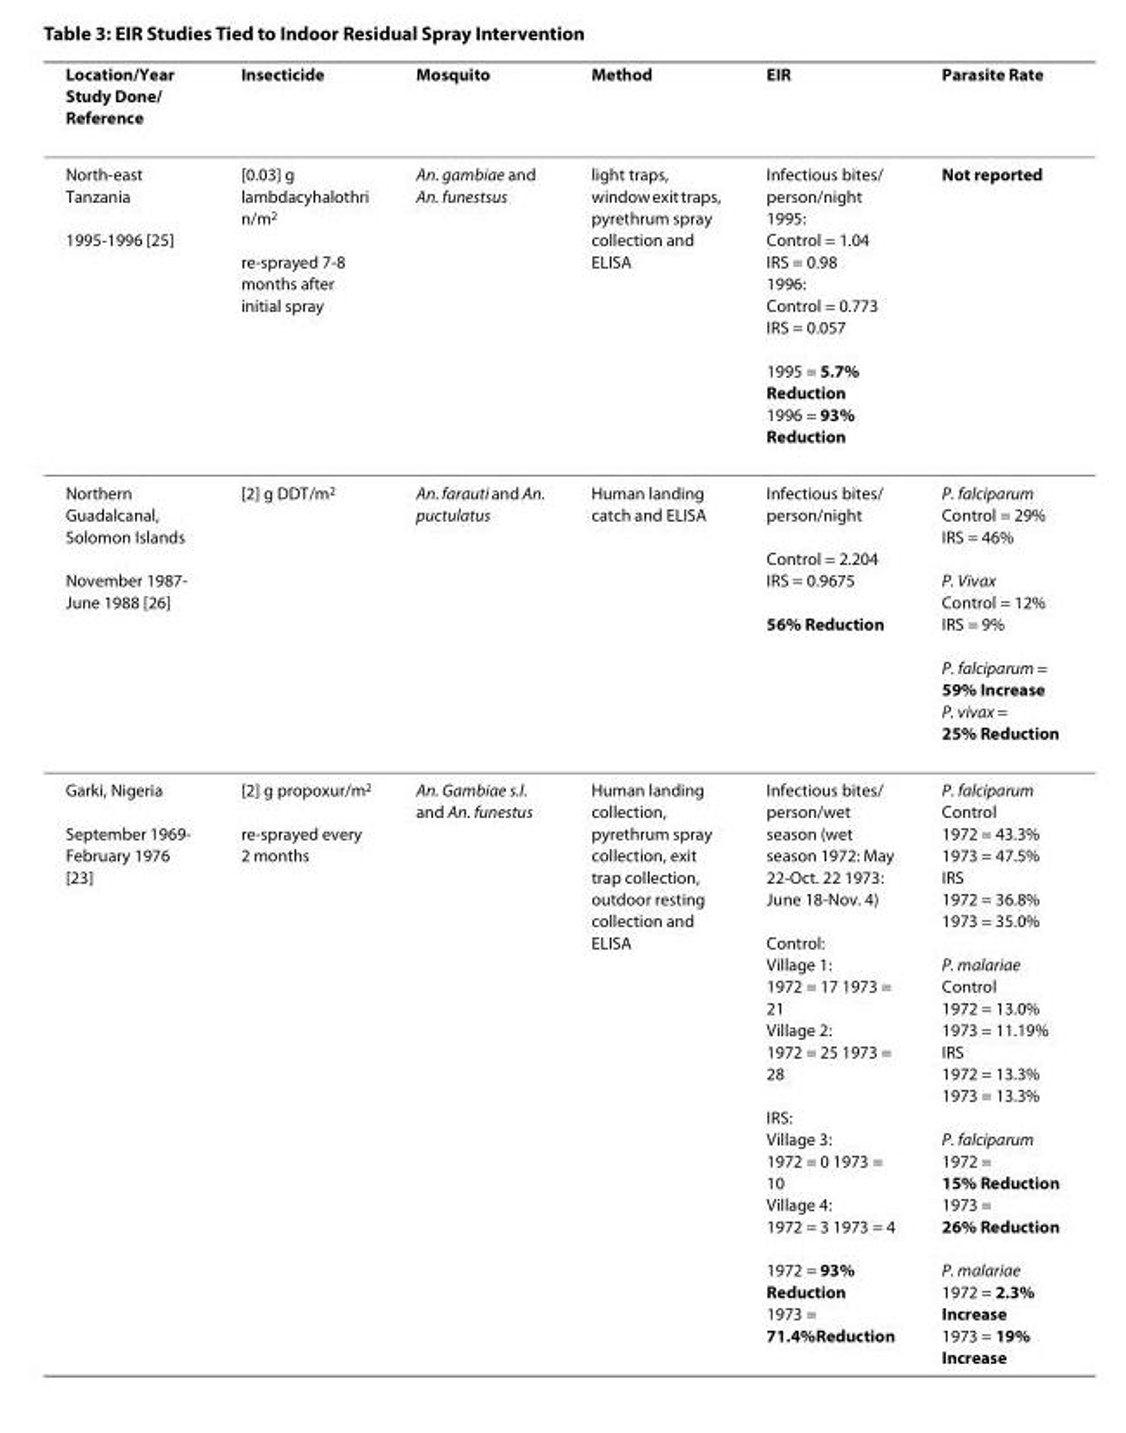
<table><thead><tr><td>Location/Year Study Done/ Reference</td><td>Insecticide</td><td>Mosquito</td><td>Method</td><td>EIR</td><td>Parasite Rate</td></tr></thead><tbody><tr><td>North-east Tanzania 1995-1996 [25]</td><td>[0.03] g lambdacyhalothri n/m<sup>2</sup> re-sprayed 7-8 months after initial spray</td><td>An. gambiae and An. funestsus</td><td>light traps, window exit traps, pyrethrum spray collection and ELISA</td><td>Infectious bites/ person/night 1995: Control = 1.04 IRS = 0.98 1996: Control = 0.773 IRS = 0.057 1995 = 5.7% Reduction 1996 = 93% Reduction</td><td>Not reported</td></tr><tr><td>Northern Guadalcanal, Solomon Islands November 1987- June 1988 [26]</td><td>[2] g DDT/m<sup>2</sup></td><td>An. farauti and An. puctulatus</td><td>Human landing catch and ELISA</td><td>Infectious bites/ person/night Control = 2.204 IRS = 0.9675 56% Reduction</td><td>P. falciparum Control = 29% IRS = 46% P. Vivax Control = 12% IRS = 9% P. falciparum = 59% Increase P. vivax = 25% Reduction</td></tr><tr><td>Garki, Nigeria September 1969- February 1976 [23]</td><td>[2] g propoxur/m<sup>2</sup> re-sprayed every 2 months</td><td>An. Gambiae s.l. and An. funestus</td><td>Human landing collection, pyrethrum spray collection, exit trap collection, outdoor resting collection and ELISA</td><td>Infectious bites/ person/wet season (wet season 1972: May 22-Oct. 22 1973: June 18-Nov. 4) Control: Village 1: 1972 = 17 1973 = 21 Village 2: 1972 = 25 1973 = 28 IRS: Village 3: 1972 = 0 1973 = 10 Village 4: 1972 = 3 1973 = 4 1972 = 93% Reduction 1973 = 71.4%Reduction</td><td>P. falciparum Control 1972 = 43.3% 1973 = 47.5% IRS 1972 = 36.8% 1973 = 35.0% P. malariae Control 1972 = 13.0% 1973 = 11.19% IRS 1972 = 13.3% 1973 = 13.3% P. falciparum 1972 = 15% Reduction 1973 = 26% Reduction P. malariae 1972 = 2.3% Increase 1973 = 19% Increase</td></tr></tbody></table>